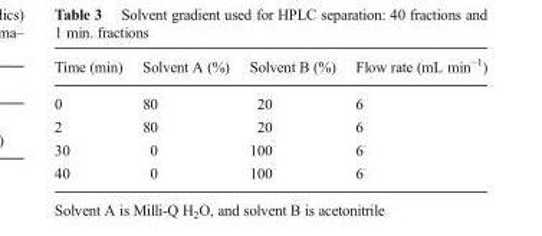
<table><thead><tr><td>Time (min)</td><td>Solvent A (%)</td><td>Solvent B (%)</td><td>Flow rate (mL min<sup>−1</sup>)</td></tr></thead><tbody><tr><td>0</td><td>80</td><td>20</td><td>6</td></tr><tr><td>2</td><td>80</td><td>20</td><td>6</td></tr><tr><td>30</td><td>0</td><td>100</td><td>6</td></tr><tr><td>40</td><td>0</td><td>100</td><td>6</td></tr></tbody></table>